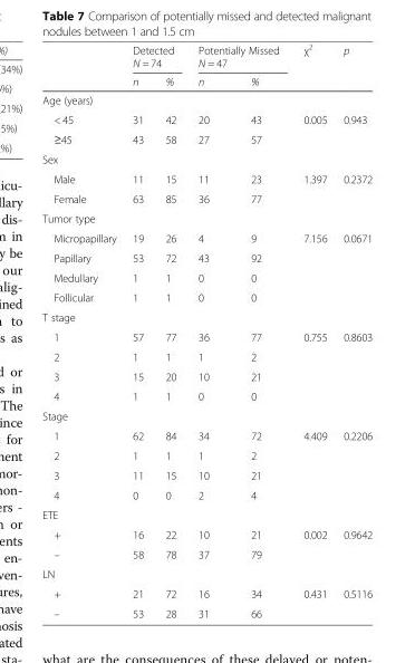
<table><thead><tr><td rowspan="2"></td><td colspan="2">Detected N = 74</td><td colspan="2">Potentially Missed N = 47</td><td rowspan="2">χ<sup>2</sup></td><td rowspan="2">p</td></tr><tr><td>n</td><td>%</td><td>n</td><td>%</td></tr></thead><tbody><tr><td colspan="7">Age (years)</td></tr><tr><td>&lt; 45</td><td>31</td><td>42</td><td>20</td><td>43</td><td rowspan="2">0.005</td><td rowspan="2">0.943</td></tr><tr><td>≥45</td><td>43</td><td>58</td><td>27</td><td>57</td></tr><tr><td colspan="7">Sex</td></tr><tr><td>Male</td><td>11</td><td>15</td><td>11</td><td>23</td><td rowspan="2">1.397</td><td rowspan="2">0.2372</td></tr><tr><td>Female</td><td>63</td><td>85</td><td>36</td><td>77</td></tr><tr><td colspan="7">Tumor type</td></tr><tr><td>Micropapillary</td><td>19</td><td>26</td><td>4</td><td>9</td><td rowspan="4">7.156</td><td rowspan="4">0.0671</td></tr><tr><td>Papillary</td><td>53</td><td>72</td><td>43</td><td>92</td></tr><tr><td>Medullary</td><td>1</td><td>1</td><td>0</td><td>0</td></tr><tr><td>Follicular</td><td>1</td><td>1</td><td>0</td><td>0</td></tr><tr><td colspan="7">T stage</td></tr><tr><td>1</td><td>57</td><td>77</td><td>36</td><td>77</td><td rowspan="4">0.755</td><td rowspan="4">0.8603</td></tr><tr><td>2</td><td>1</td><td>1</td><td>1</td><td>2</td></tr><tr><td>3</td><td>15</td><td>20</td><td>10</td><td>21</td></tr><tr><td>4</td><td>1</td><td>1</td><td>0</td><td>0</td></tr><tr><td colspan="7">Stage</td></tr><tr><td>1</td><td>62</td><td>84</td><td>34</td><td>72</td><td rowspan="4">4.409</td><td rowspan="4">0.2206</td></tr><tr><td>2</td><td>1</td><td>1</td><td>1</td><td>2</td></tr><tr><td>3</td><td>11</td><td>15</td><td>10</td><td>21</td></tr><tr><td>4</td><td>0</td><td>0</td><td>2</td><td>4</td></tr><tr><td colspan="7">ETE</td></tr><tr><td>+</td><td>16</td><td>22</td><td>10</td><td>21</td><td rowspan="2">0.002</td><td rowspan="2">0.9642</td></tr><tr><td>–</td><td>58</td><td>78</td><td>37</td><td>79</td></tr><tr><td colspan="7">LN</td></tr><tr><td>+</td><td>21</td><td>72</td><td>16</td><td>34</td><td rowspan="2">0.431</td><td rowspan="2">0.5116</td></tr><tr><td>–</td><td>53</td><td>28</td><td>31</td><td>66</td></tr></tbody></table>